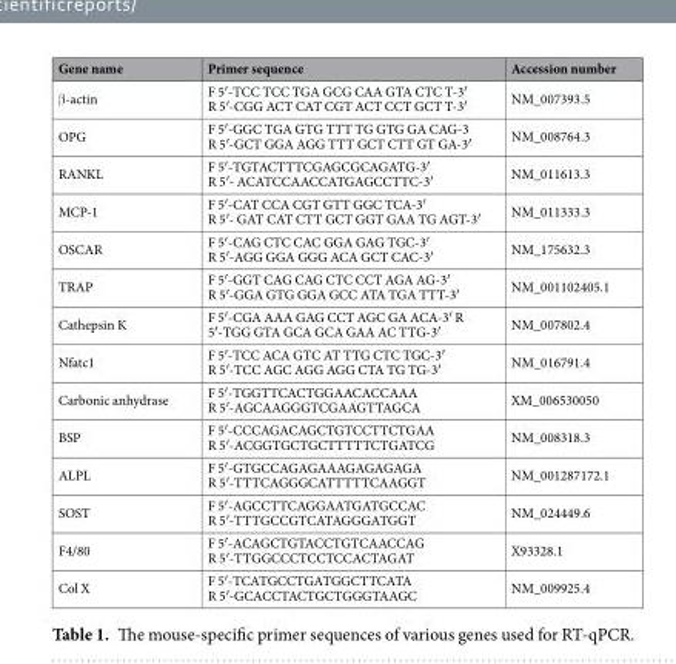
<table><thead><tr><td>Gene name</td><td>Primer sequence</td><td>Accession number</td></tr></thead><tbody><tr><td>β-actin</td><td>F 5′-TCC TCC TGA GCG CAA GTA CTC T-3′ R 5′-CGG ACT CAT CGT ACT CCT GCT T-3′</td><td>NM_007393.5</td></tr><tr><td>OPG</td><td>F 5′-GGC TGA GTG TTT TG GTG GA CAG-3 R 5′-GCT GGA AGG TTT GCT CTT GT GA-3′</td><td>NM_008764.3</td></tr><tr><td>RANKL</td><td>F 5′-TGTACTTTCGAGCGCAGATG-3′ R 5′- ACATCCAACCATGAGCCTTC-3′</td><td>NM_011613.3</td></tr><tr><td>MCP-1</td><td>F 5′-CAT CCA CGT GTT GGC TCA-3′ R 5′- GAT CAT CTT GCT GGT GAA TG AGT-3′</td><td>NM_011333.3</td></tr><tr><td>OSCAR</td><td>F 5′-CAG CTC CAC GGA GAG TGC-3′ R 5′-AGG GGA GGG ACA GCT CAC-3′</td><td>NM_175632.3</td></tr><tr><td>TRAP</td><td>F 5′-GGT CAG CAG CTC CCT AGA AG-3′ R 5′-GGA GTG GGA GCC ATA TGA TTT-3′</td><td>NM_001102405.1</td></tr><tr><td>Cathepsin K</td><td>F 5′-CGA AAA GAG CCT AGC GA ACA-3′ R 5′-TGG GTA GCA GCA GAA AC TTG-3′</td><td>NM_007802.4</td></tr><tr><td>Nfatc1</td><td>F 5′-TCC ACA GTC AT TTG CTC TGC-3′ R 5′-TCC AGC AGG AGG CTA TG TG-3′</td><td>NM_016791.4</td></tr><tr><td>Carbonic anhydrase</td><td>F 5′-TGGTTCACTGGAACACCAAA R 5′-AGCAAGGGTCGAAGTTAGCA</td><td>XM_006530050</td></tr><tr><td>BSP</td><td>F 5′-CCCAGACAGCTGTCCTTCTGAA R 5′-ACGGTGCTGCTTTTTCTGATCG</td><td>NM_008318.3</td></tr><tr><td>ALPL</td><td>F 5′-GTGCCAGAGAAAGAGAGAGA R 5′-TTTCAGGGCATTTTTCAAGGT</td><td>NM_001287172.1</td></tr><tr><td>SOST</td><td>F 5′-AGCCTTCAGGAATGATGCCAC R 5′-TTTGCCGTCATAGGGATGGT</td><td>NM_024449.6</td></tr><tr><td>F4/80</td><td>F 5′-ACAGCTGTACCTGTCAACCAG R 5′-TTGGCCCTCCTCCACTAGAT</td><td>X93328.1</td></tr><tr><td>Col X</td><td>F 5′-TCATGCCTGATGGCTTCATA R 5′-GCACCTACTGCTGGGTAAGC</td><td>NM_009925.4</td></tr></tbody></table>